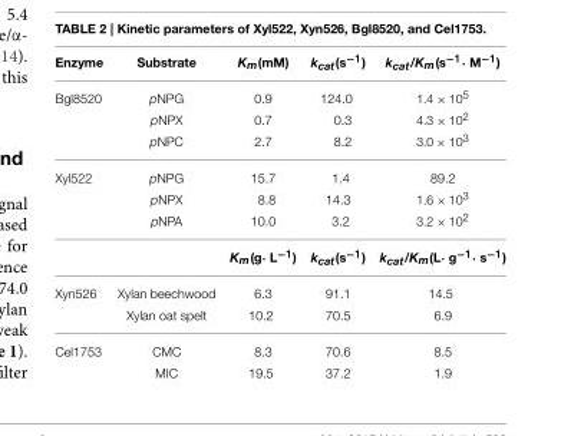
<table><thead><tr><td>Enzyme</td><td>Substrate</td><td>K<sub>m</sub>(mM)</td><td>k<sub>cat</sub>(s<sup>−1</sup>)</td><td>k<sub>cat</sub>/K<sub>m</sub>(s<sup>−1</sup>· M<sup>−1</sup>)</td></tr></thead><tbody><tr><td rowspan="3">Bgl8520</td><td>pNPG</td><td>0.9</td><td>124.0</td><td>1.4 × 10<sup>5</sup></td></tr><tr><td>pNPX</td><td>0.7</td><td>0.3</td><td>4.3 × 10<sup>2</sup></td></tr><tr><td>pNPC</td><td>2.7</td><td>8.2</td><td>3.0 × 10<sup>3</sup></td></tr><tr><td rowspan="4">Xyl522</td><td>pNPG</td><td>15.7</td><td>1.4</td><td>89.2</td></tr><tr><td>pNPX</td><td>8.8</td><td>14.3</td><td>1.6 × 10<sup>3</sup></td></tr><tr><td>pNPA</td><td>10.0</td><td>3.2</td><td>3.2 × 10<sup>2</sup></td></tr><tr><td></td><td>K<sub>m</sub>(g· L<sup>−1</sup>)</td><td>k<sub>cat</sub>(s<sup>−1</sup>)</td><td>k<sub>cat</sub>/K<sub>m</sub>(L· g<sup>−1</sup>· s<sup>−1</sup>)</td></tr><tr><td rowspan="2">Xyn526</td><td>Xylan beechwood</td><td>6.3</td><td>91.1</td><td>14.5</td></tr><tr><td>Xylan oat spelt</td><td>10.2</td><td>70.5</td><td>6.9</td></tr><tr><td rowspan="2">Cel1753</td><td>CMC</td><td>8.3</td><td>70.6</td><td>8.5</td></tr><tr><td>MIC</td><td>19.5</td><td>37.2</td><td>1.9</td></tr></tbody></table>